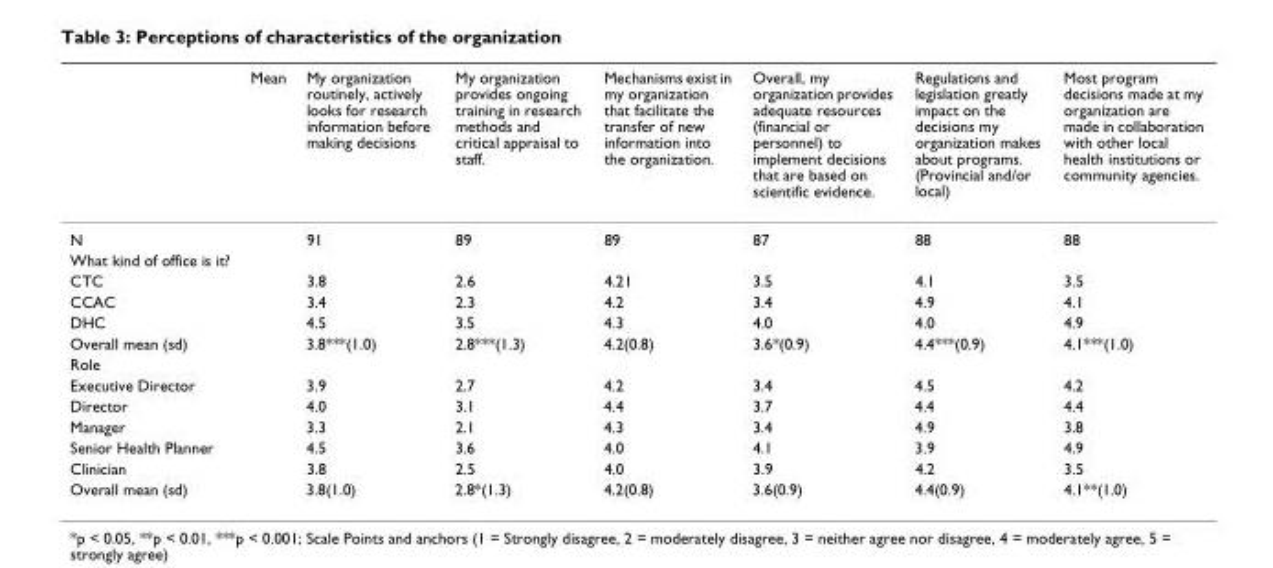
<table><thead><tr><td></td><td>Mean</td><td>My organization routinely, actively looks for research information before making decisions</td><td>My organization provides ongoing training in research methods and critical appraisal to staff.</td><td>Mechanisms exist in my organization that facilitate the transfer of new information into the organization.</td><td>Overall, my organization provides adequate resources (financial or personnel) to implement decisions that are based on scientific evidence.</td><td>Regulations and legislation greatly impact on the decisions my organization makes about programs. (Provincial and/or local)</td><td>Most program decisions made at my organization are made in collaboration with other local health institutions or community agencies.</td></tr></thead><tbody><tr><td>N</td><td></td><td>91</td><td>89</td><td>89</td><td>87</td><td>88</td><td>88</td></tr><tr><td colspan="8">What kind of office is it?</td></tr><tr><td>CTC</td><td></td><td>3.8</td><td>2.6</td><td>4.21</td><td>3.5</td><td>4.1</td><td>3.5</td></tr><tr><td>CCAC</td><td></td><td>3.4</td><td>2.3</td><td>4.2</td><td>3.4</td><td>4.9</td><td>4.1</td></tr><tr><td>DHC</td><td></td><td>4.5</td><td>3.5</td><td>4.3</td><td>4.0</td><td>4.0</td><td>4.9</td></tr><tr><td>Overall mean (sd)</td><td></td><td>3.8***(1.0)</td><td>2.8***(1.3)</td><td>4.2(0.8)</td><td>3.6*(0.9)</td><td>4.4***(0.9)</td><td>4.1***(1.0)</td></tr><tr><td colspan="8">Role</td></tr><tr><td>Executive Director</td><td></td><td>3.9</td><td>2.7</td><td>4.2</td><td>3.4</td><td>4.5</td><td>4.2</td></tr><tr><td>Director</td><td></td><td>4.0</td><td>3.1</td><td>4.4</td><td>3.7</td><td>4.4</td><td>4.4</td></tr><tr><td>Manager</td><td></td><td>3.3</td><td>2.1</td><td>4.3</td><td>3.4</td><td>4.9</td><td>3.8</td></tr><tr><td>Senior Health Planner</td><td></td><td>4.5</td><td>3.6</td><td>4.0</td><td>4.1</td><td>3.9</td><td>4.9</td></tr><tr><td>Clinician</td><td></td><td>3.8</td><td>2.5</td><td>4.0</td><td>3.9</td><td>4.2</td><td>3.5</td></tr><tr><td>Overall mean (sd)</td><td></td><td>3.8(1.0)</td><td>2.8*(1.3)</td><td>4.2(0.8)</td><td>3.6(0.9)</td><td>4.4(0.9)</td><td>4.1**(1.0)</td></tr></tbody></table>